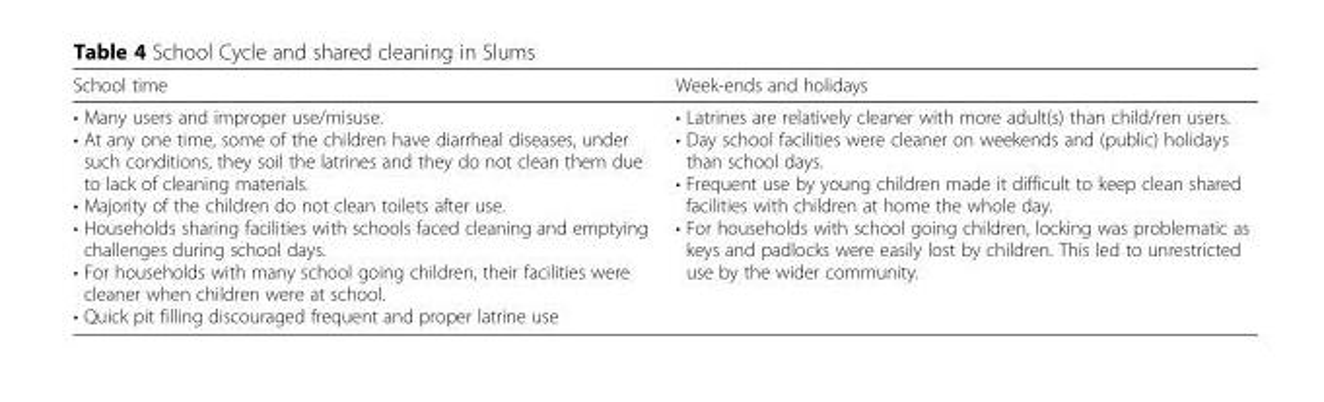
<table><thead><tr><td>School time</td><td>Week-ends and holidays</td></tr></thead><tbody><tr><td>• Many users and improper use/misuse. • At any one time, some of the children have diarrheal diseases, under such conditions, they soil the latrines and they do not clean them due to lack of cleaning materials. • Majority of the children do not clean toilets after use. • Households sharing facilities with schools faced cleaning and emptying challenges during school days. • For households with many school going children, their facilities were cleaner when children were at school. • Quick pit filling discouraged frequent and proper latrine use</td><td>• Latrines are relatively cleaner with more adult(s) than child/ren users. • Day school facilities were cleaner on weekends and (public) holidays than school days. • Frequent use by young children made it difficult to keep clean shared facilities with children at home the whole day. • For households with school going children, locking was problematic as keys and padlocks were easily lost by children. This led to unrestricted use by the wider community.</td></tr></tbody></table>